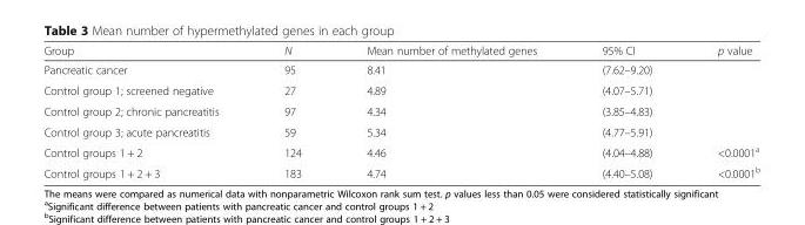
<table><thead><tr><td>Group</td><td>N</td><td>Mean number of methylated genes</td><td>95% CI</td><td>p value</td></tr></thead><tbody><tr><td>Pancreatic cancer</td><td>95</td><td>8.41</td><td>(7.62–9.20)</td><td></td></tr><tr><td>Control group 1; screened negative</td><td>27</td><td>4.89</td><td>(4.07–5.71)</td><td></td></tr><tr><td>Control group 2; chronic pancreatitis</td><td>97</td><td>4.34</td><td>(3.85–4.83)</td><td></td></tr><tr><td>Control group 3; acute pancreatitis</td><td>59</td><td>5.34</td><td>(4.77–5.91)</td><td></td></tr><tr><td>Control groups 1 + 2</td><td>124</td><td>4.46</td><td>(4.04–4.88)</td><td>&lt;0.0001<sup>a</sup></td></tr><tr><td>Control groups 1 + 2 + 3</td><td>183</td><td>4.74</td><td>(4.40–5.08)</td><td>&lt;0.0001<sup>b</sup></td></tr></tbody></table>